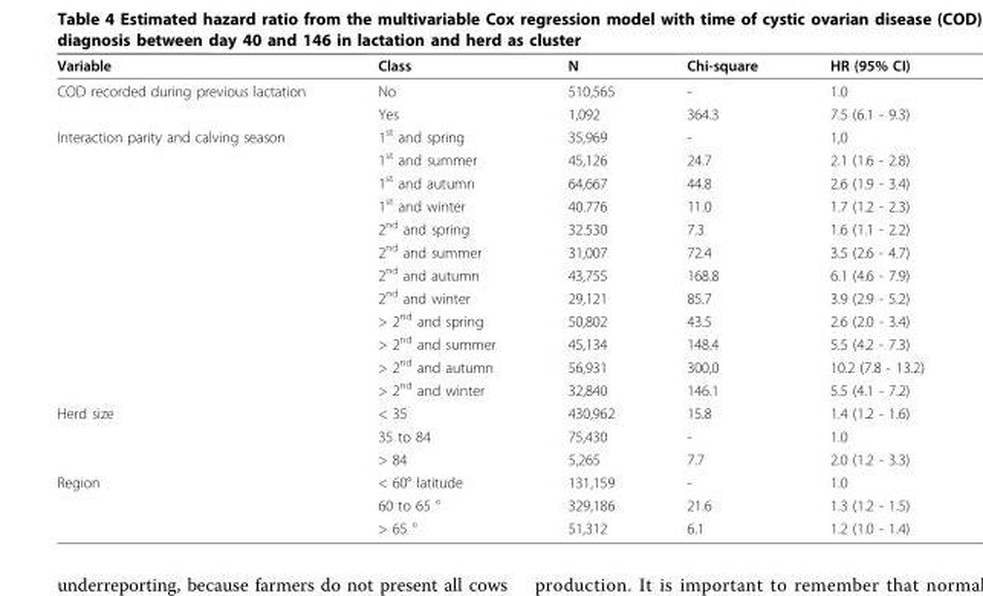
<table><thead><tr><td>Variable</td><td>Class</td><td>N</td><td>Chi-square</td><td>HR (95% CI)</td></tr></thead><tbody><tr><td rowspan="2">COD recorded during previous lactation</td><td>No</td><td>510,565</td><td>-</td><td>1.0</td></tr><tr><td>Yes</td><td>1,092</td><td>364.3</td><td>7.5 (6.1 - 9.3)</td></tr><tr><td rowspan="12">Interaction parity and calving season</td><td>1<sup>st</sup> and spring</td><td>35,969</td><td>-</td><td>1,0</td></tr><tr><td>1<sup>st</sup> and summer</td><td>45,126</td><td>24.7</td><td>2.1 (1.6 - 2.8)</td></tr><tr><td>1<sup>st</sup> and autumn</td><td>64,667</td><td>44.8</td><td>2.6 (1.9 - 3.4)</td></tr><tr><td>1<sup>st</sup> and winter</td><td>40.776</td><td>11.0</td><td>1.7 (1.2 - 2.3)</td></tr><tr><td>2<sup>nd</sup> and spring</td><td>32.530</td><td>7.3</td><td>1.6 (1.1 - 2.2)</td></tr><tr><td>2<sup>nd</sup> and summer</td><td>31,007</td><td>72.4</td><td>3.5 (2.6 - 4.7)</td></tr><tr><td>2<sup>nd</sup> and autumn</td><td>43,755</td><td>168.8</td><td>6.1 (4.6 - 7.9)</td></tr><tr><td>2<sup>nd</sup> and winter</td><td>29,121</td><td>85.7</td><td>3.9 (2.9 - 5.2)</td></tr><tr><td>&gt; 2<sup>nd</sup> and spring</td><td>50,802</td><td>43.5</td><td>2.6 (2.0 - 3.4)</td></tr><tr><td>&gt; 2<sup>nd</sup> and summer</td><td>45,134</td><td>148.4</td><td>5.5 (4.2 - 7.3)</td></tr><tr><td>&gt; 2<sup>nd</sup> and autumn</td><td>56,931</td><td>300,0</td><td>10.2 (7.8 - 13.2)</td></tr><tr><td>&gt; 2<sup>nd</sup> and winter</td><td>32,840</td><td>146.1</td><td>5.5 (4.1 - 7.2)</td></tr><tr><td rowspan="3">Herd size</td><td>&lt; 35</td><td>430,962</td><td>15.8</td><td>1.4 (1.2 - 1.6)</td></tr><tr><td>35 to 84</td><td>75,430</td><td>-</td><td>1.0</td></tr><tr><td>&gt; 84</td><td>5,265</td><td>7.7</td><td>2.0 (1.2 - 3.3)</td></tr><tr><td rowspan="3">Region</td><td>&lt; 60° latitude</td><td>131,159</td><td>-</td><td>1.0</td></tr><tr><td>60 to 65 °</td><td>329,186</td><td>21.6</td><td>1.3 (1.2 - 1.5)</td></tr><tr><td>&gt; 65 °</td><td>51,312</td><td>6.1</td><td>1.2 (1.0 - 1.4)</td></tr></tbody></table>